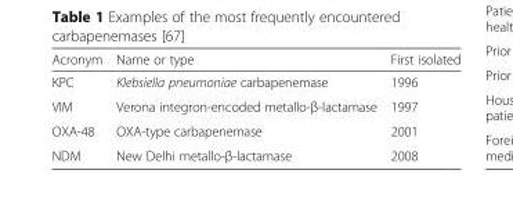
<table><thead><tr><td>Acronym</td><td>Name or type</td><td>First isolated</td></tr></thead><tbody><tr><td>KPC</td><td>Klebsiella pneumoniae carbapenemase</td><td>1996</td></tr><tr><td>VIM</td><td>Verona integron-encoded metallo-β-lactamase</td><td>1997</td></tr><tr><td>OXA-48</td><td>OXA-type carbapenemase</td><td>2001</td></tr><tr><td>NDM</td><td>New Delhi metallo-β-lactamase</td><td>2008</td></tr></tbody></table>